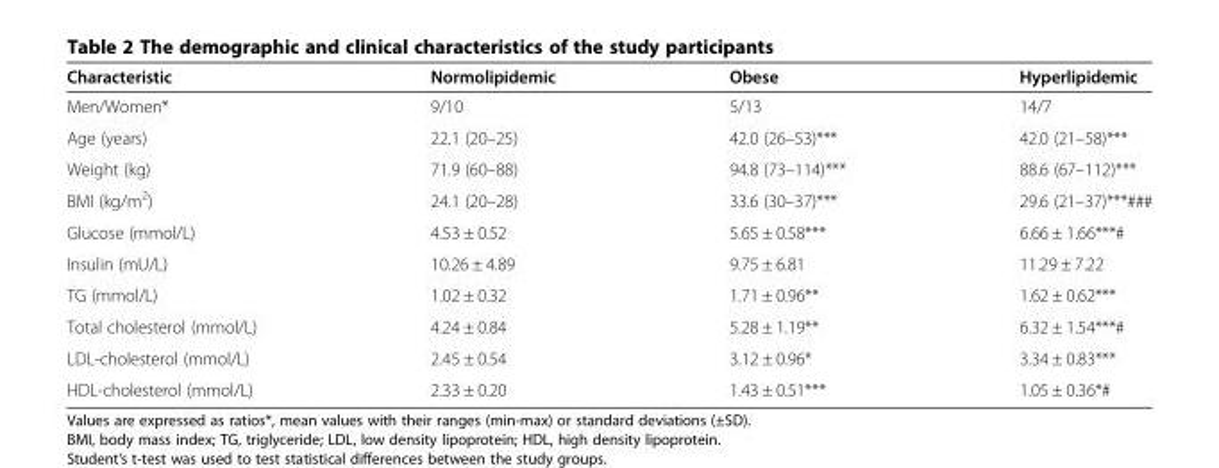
<table><thead><tr><td>Characteristic</td><td>Normolipidemic</td><td>Obese</td><td>Hyperlipidemic</td></tr></thead><tbody><tr><td>Men/Women*</td><td>9/10</td><td>5/13</td><td>14/7</td></tr><tr><td>Age (years)</td><td>22.1 (20–25)</td><td>42.0 (26–53)***</td><td>42.0 (21–58)***</td></tr><tr><td>Weight (kg)</td><td>71.9 (60–88)</td><td>94.8 (73–114)***</td><td>88.6 (67–112)***</td></tr><tr><td>BMI (kg/m<sup>2</sup>)</td><td>24.1 (20–28)</td><td>33.6 (30–37)***</td><td>29.6 (21–37)***###</td></tr><tr><td>Glucose (mmol/L)</td><td>4.53 ± 0.52</td><td>5.65 ± 0.58***</td><td>6.66 ± 1.66***#</td></tr><tr><td>Insulin (mU/L)</td><td>10.26 ± 4.89</td><td>9.75 ± 6.81</td><td>11.29 ± 7.22</td></tr><tr><td>TG (mmol/L)</td><td>1.02 ± 0.32</td><td>1.71 ± 0.96**</td><td>1.62 ± 0.62***</td></tr><tr><td>Total cholesterol (mmol/L)</td><td>4.24 ± 0.84</td><td>5.28 ± 1.19**</td><td>6.32 ± 1.54***#</td></tr><tr><td>LDL-cholesterol (mmol/L)</td><td>2.45 ± 0.54</td><td>3.12 ± 0.96*</td><td>3.34 ± 0.83***</td></tr><tr><td>HDL-cholesterol (mmol/L)</td><td>2.33 ± 0.20</td><td>1.43 ± 0.51***</td><td>1.05 ± 0.36*#</td></tr></tbody></table>